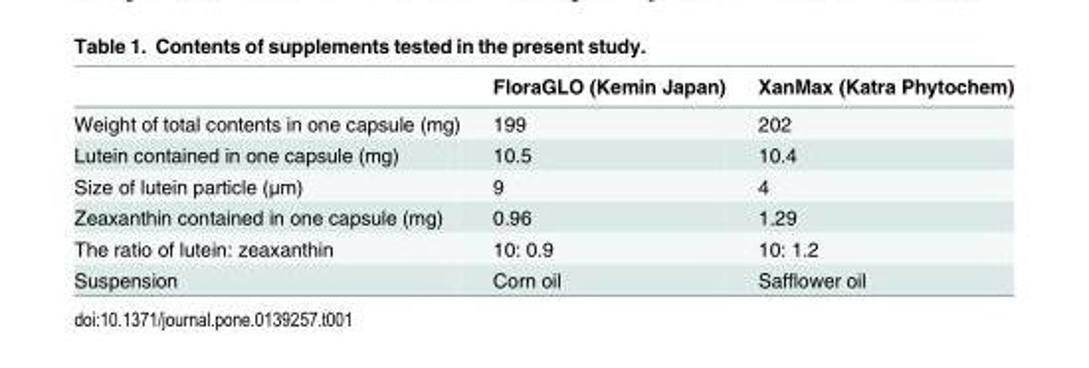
<table><thead><tr><td></td><td>FloraGLO (Kemin Japan)</td><td>XanMax (Katra Phytochem)</td></tr></thead><tbody><tr><td>Weight of total contents in one capsule (mg)</td><td>199</td><td>202</td></tr><tr><td>Lutein contained in one capsule (mg)</td><td>10.5</td><td>10.4</td></tr><tr><td>Size of lutein particle (μm)</td><td>9</td><td>4</td></tr><tr><td>Zeaxanthin contained in one capsule (mg)</td><td>0.96</td><td>1.29</td></tr><tr><td>The ratio of lutein: zeaxanthin</td><td>10: 0.9</td><td>10: 1.2</td></tr><tr><td>Suspension</td><td>Corn oil</td><td>Safflower oil</td></tr></tbody></table>